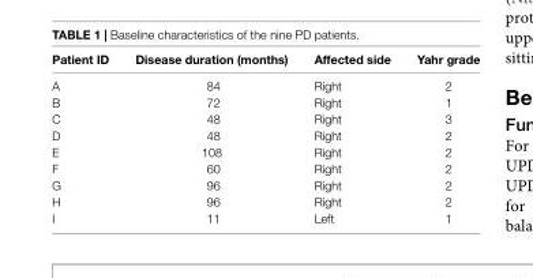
<table><thead><tr><td>Patient ID</td><td>Disease duration (months)</td><td>Affected side</td><td>Yahr grade</td></tr></thead><tbody><tr><td>A</td><td>84</td><td>Right</td><td>2</td></tr><tr><td>B</td><td>72</td><td>Right</td><td>1</td></tr><tr><td>C</td><td>48</td><td>Right</td><td>3</td></tr><tr><td>D</td><td>48</td><td>Right</td><td>2</td></tr><tr><td>E</td><td>108</td><td>Right</td><td>2</td></tr><tr><td>F</td><td>60</td><td>Right</td><td>2</td></tr><tr><td>G</td><td>96</td><td>Right</td><td>2</td></tr><tr><td>H</td><td>96</td><td>Right</td><td>2</td></tr><tr><td>I</td><td>11</td><td>Left</td><td>1</td></tr></tbody></table>